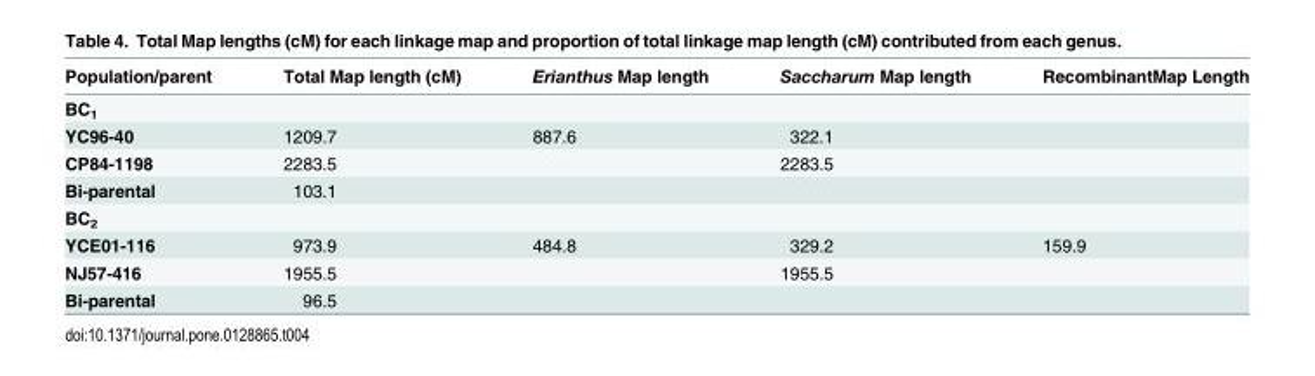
<table><thead><tr><td>Population/parent</td><td>Total Map length (cM)</td><td>Erianthus Map length</td><td>Saccharum Map length</td><td>RecombinantMap Length</td></tr></thead><tbody><tr><td colspan="5">BC<sub>1</sub></td></tr><tr><td>YC96-40</td><td>1209.7</td><td>887.6</td><td>322.1</td><td></td></tr><tr><td>CP84-1198</td><td>2283.5</td><td></td><td>2283.5</td><td></td></tr><tr><td>Bi-parental</td><td>103.1</td><td></td><td></td><td></td></tr><tr><td colspan="5">BC<sub>2</sub></td></tr><tr><td>YCE01-116</td><td>973.9</td><td>484.8</td><td>329.2</td><td>159.9</td></tr><tr><td>NJ57-416</td><td>1955.5</td><td></td><td>1955.5</td><td></td></tr><tr><td>Bi-parental</td><td>96.5</td><td></td><td></td><td></td></tr></tbody></table>